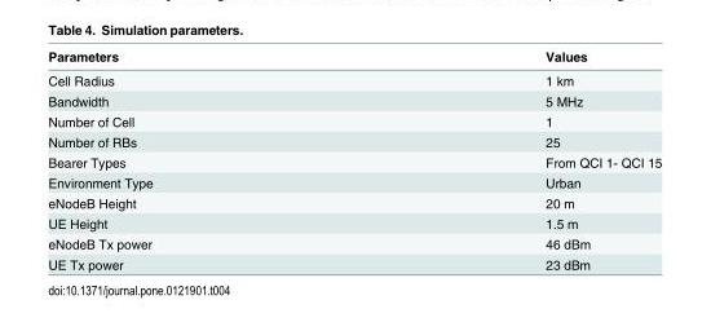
<table><thead><tr><td>Parameters</td><td>Values</td></tr></thead><tbody><tr><td>Cell Radius</td><td>1 km</td></tr><tr><td>Bandwidth</td><td>5 MHz</td></tr><tr><td>Number of Cell</td><td>1</td></tr><tr><td>Number of RBs</td><td>25</td></tr><tr><td>Bearer Types</td><td>From QCI 1- QCI 15</td></tr><tr><td>Environment Type</td><td>Urban</td></tr><tr><td>eNodeB Height</td><td>20 m</td></tr><tr><td>UE Height</td><td>1.5 m</td></tr><tr><td>eNodeB Tx power</td><td>46 dBm</td></tr><tr><td>UE Tx power</td><td>23 dBm</td></tr></tbody></table>